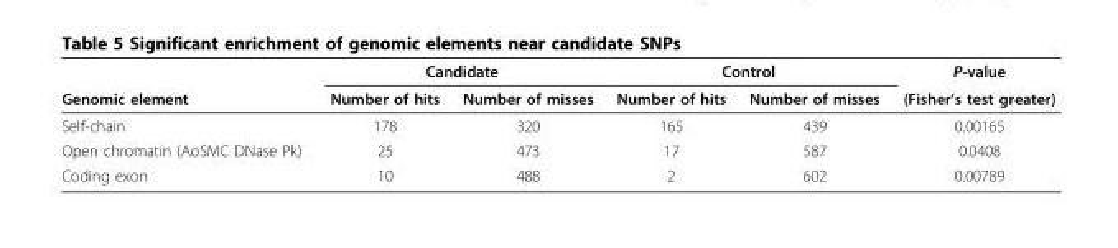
<table><thead><tr><td rowspan="2">Genomic element</td><td colspan="2">Candidate</td><td colspan="2">Control</td><td rowspan="2">P-value (Fisher’s test greater)</td></tr><tr><td>Number of hits</td><td>Number of misses</td><td>Number of hits</td><td>Number of misses</td></tr></thead><tbody><tr><td>Self-chain</td><td>178</td><td>320</td><td>165</td><td>439</td><td>0.00165</td></tr><tr><td>Open chromatin (AoSMC DNase Pk)</td><td>25</td><td>473</td><td>17</td><td>587</td><td>0.0408</td></tr><tr><td>Coding exon</td><td>10</td><td>488</td><td>2</td><td>602</td><td>0.00789</td></tr></tbody></table>